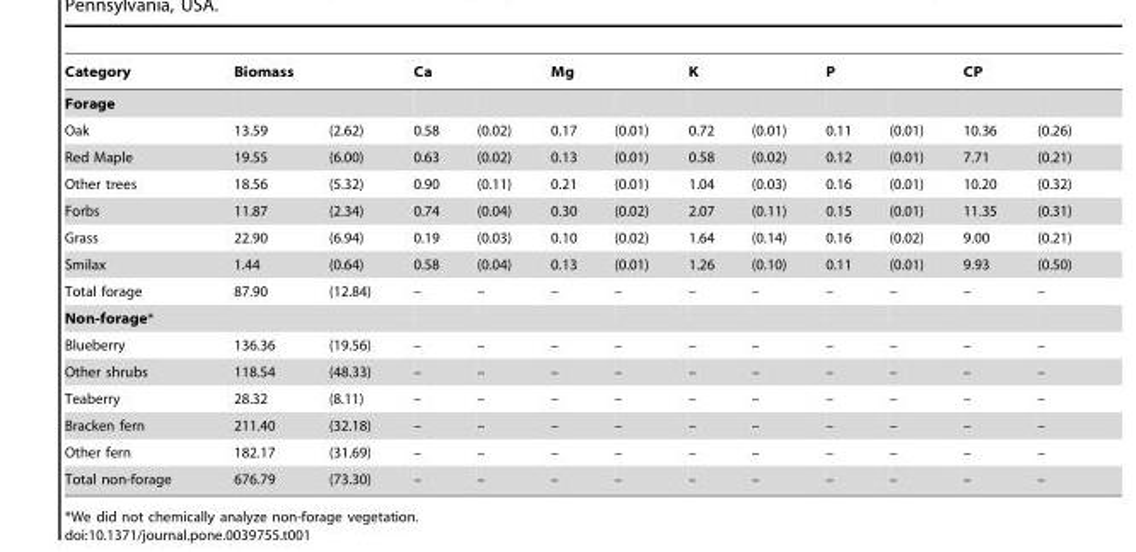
<table><thead><tr><td rowspan="2">Category Forage</td><td colspan="2">Biomass</td><td colspan="2">Ca</td><td colspan="2">Mg</td><td colspan="2">K</td><td colspan="2">P</td><td colspan="2">CP</td></tr><tr><td></td><td></td><td></td><td></td><td></td><td></td><td></td><td></td><td></td><td></td><td></td><td></td></tr></thead><tbody><tr><td>Oak</td><td>13.59</td><td>(2.62)</td><td>0.58</td><td>(0.02)</td><td>0.17</td><td>(0.01)</td><td>0.72</td><td>(0.01)</td><td>0.11</td><td>(0.01)</td><td>10.36</td><td>(0.26)</td></tr><tr><td>Red Maple</td><td>19.55</td><td>(6.00)</td><td>0.63</td><td>(0.02)</td><td>0.13</td><td>(0.01)</td><td>0.58</td><td>(0.02)</td><td>0.12</td><td>(0.01)</td><td>7.71</td><td>(0.21)</td></tr><tr><td>Other trees</td><td>18.56</td><td>(5.32)</td><td>0.90</td><td>(0.11)</td><td>0.21</td><td>(0.01)</td><td>1.04</td><td>(0.03)</td><td>0.16</td><td>(0.01)</td><td>10.20</td><td>(0.32)</td></tr><tr><td>Forbs</td><td>11.87</td><td>(2.34)</td><td>0.74</td><td>(0.04)</td><td>0.30</td><td>(0.02)</td><td>2.07</td><td>(0.11)</td><td>0.15</td><td>(0.01)</td><td>11.35</td><td>(0.31)</td></tr><tr><td>Grass</td><td>22.90</td><td>(6.94)</td><td>0.19</td><td>(0.03)</td><td>0.10</td><td>(0.02)</td><td>1.64</td><td>(0.14)</td><td>0.16</td><td>(0.02)</td><td>9.00</td><td>(0.21)</td></tr><tr><td>Smilax</td><td>1.44</td><td>(0.64)</td><td>0.58</td><td>(0.04)</td><td>0.13</td><td>(0.01)</td><td>1.26</td><td>(0.10)</td><td>0.11</td><td>(0.01)</td><td>9.93</td><td>(0.50)</td></tr><tr><td>Total forage</td><td>87.90</td><td>(12.84)</td><td>–</td><td>–</td><td>–</td><td>–</td><td>–</td><td>–</td><td>–</td><td>–</td><td>–</td><td>–</td></tr><tr><td colspan="13">Non-forage*</td></tr><tr><td>Blueberry</td><td>136.36</td><td>(19.56)</td><td>–</td><td>–</td><td>–</td><td>–</td><td>–</td><td>–</td><td>–</td><td>–</td><td>–</td><td>–</td></tr><tr><td>Other shrubs</td><td>118.54</td><td>(48.33)</td><td>–</td><td>–</td><td>–</td><td>–</td><td>–</td><td>–</td><td>–</td><td>–</td><td>–</td><td>–</td></tr><tr><td>Teaberry</td><td>28.32</td><td>(8.11)</td><td>–</td><td>–</td><td>–</td><td>–</td><td>–</td><td>–</td><td>–</td><td>–</td><td>–</td><td>–</td></tr><tr><td>Bracken fern</td><td>211.40</td><td>(32.18)</td><td>–</td><td>–</td><td>–</td><td>–</td><td>–</td><td>–</td><td>–</td><td>–</td><td>–</td><td>–</td></tr><tr><td>Other fern</td><td>182.17</td><td>(31.69)</td><td>–</td><td>–</td><td>–</td><td>–</td><td>–</td><td>–</td><td>–</td><td>–</td><td>–</td><td>–</td></tr><tr><td>Total non-forage</td><td>676.79</td><td>(73.30)</td><td>–</td><td>–</td><td>–</td><td>–</td><td>–</td><td>–</td><td>–</td><td>–</td><td>–</td><td>–</td></tr></tbody></table>